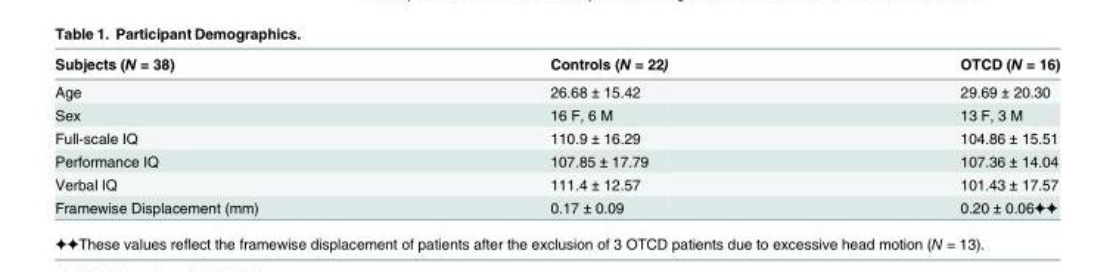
<table><thead><tr><td>Subjects (N = 38)</td><td>Controls (N = 22)</td><td>OTCD (N = 16)</td></tr></thead><tbody><tr><td>Age</td><td>26.68 ± 15.42</td><td>29.69 ± 20.30</td></tr><tr><td>Sex</td><td>16 F, 6 M</td><td>13 F, 3 M</td></tr><tr><td>Full-scale IQ</td><td>110.9 ± 16.29</td><td>104.86 ± 15.51</td></tr><tr><td>Performance IQ</td><td>107.85 ± 17.79</td><td>107.36 ± 14.04</td></tr><tr><td>Verbal IQ</td><td>111.4 ± 12.57</td><td>101.43 ± 17.57</td></tr><tr><td>Framewise Displacement (mm)</td><td>0.17 ± 0.09</td><td>0.20 ± 0.06✦✦</td></tr></tbody></table>